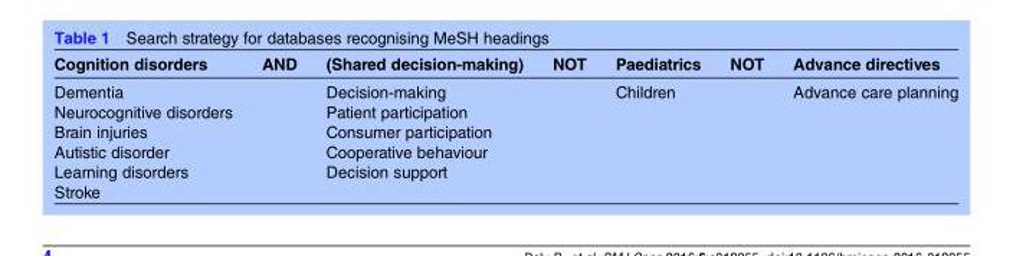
<table><thead><tr><td>Cognition disorders</td><td>AND</td><td>(Shared decision-making)</td><td>NOT</td><td>Paediatrics</td><td>NOT</td><td>Advance directives</td></tr></thead><tbody><tr><td>Dementia</td><td></td><td>Decision-making</td><td></td><td>Children</td><td></td><td>Advance care planning</td></tr><tr><td>Neurocognitive disorders</td><td></td><td>Patient participation</td><td></td><td></td><td></td><td></td></tr><tr><td>Brain injuries</td><td></td><td>Consumer participation</td><td></td><td></td><td></td><td></td></tr><tr><td>Autistic disorder</td><td></td><td>Cooperative behaviour</td><td></td><td></td><td></td><td></td></tr><tr><td>Learning disorders</td><td></td><td>Decision support</td><td></td><td></td><td></td><td></td></tr><tr><td>Stroke</td><td></td><td></td><td></td><td></td><td></td><td></td></tr></tbody></table>